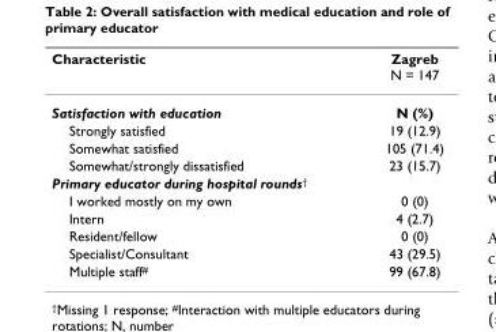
<table><thead><tr><td>Characteristic</td><td>Zagreb N = 147</td></tr></thead><tbody><tr><td>Satisfaction with education</td><td>N (%)</td></tr><tr><td>Strongly satisfied</td><td>19 (12.9)</td></tr><tr><td>Somewhat satisfied</td><td>105 (71.4)</td></tr><tr><td>Somewhat/strongly dissatisfied</td><td>23 (15.7)</td></tr><tr><td colspan="2">Primary educator during hospital rounds<sup>†</sup></td></tr><tr><td>I worked mostly on my own</td><td>0 (0)</td></tr><tr><td>Intern</td><td>4 (2.7)</td></tr><tr><td>Resident/fellow</td><td>0 (0)</td></tr><tr><td>Specialist/Consultant</td><td>43 (29.5)</td></tr><tr><td>Multiple staff<sup>#</sup></td><td>99 (67.8)</td></tr></tbody></table>